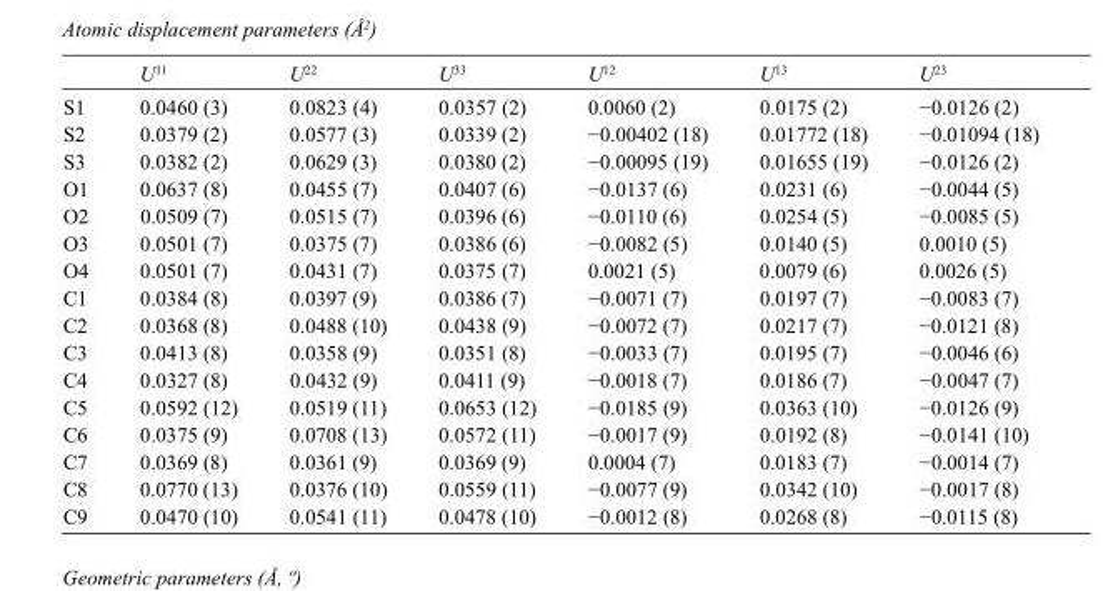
<table><thead><tr><td></td><td>U<sup>11</sup></td><td>U<sup>22</sup></td><td>U<sup>33</sup></td><td>U<sup>12</sup></td><td>U<sup>13</sup></td><td>U<sup>23</sup></td></tr></thead><tbody><tr><td>S1</td><td>0.0460 (3)</td><td>0.0823 (4)</td><td>0.0357 (2)</td><td>0.0060 (2)</td><td>0.0175 (2)</td><td>−0.0126 (2)</td></tr><tr><td>S2</td><td>0.0379 (2)</td><td>0.0577 (3)</td><td>0.0339 (2)</td><td>−0.00402 (18)</td><td>0.01772 (18)</td><td>−0.01094 (18)</td></tr><tr><td>S3</td><td>0.0382 (2)</td><td>0.0629 (3)</td><td>0.0380 (2)</td><td>−0.00095 (19)</td><td>0.01655 (19)</td><td>−0.0126 (2)</td></tr><tr><td>O1</td><td>0.0637 (8)</td><td>0.0455 (7)</td><td>0.0407 (6)</td><td>−0.0137 (6)</td><td>0.0231 (6)</td><td>−0.0044 (5)</td></tr><tr><td>O2</td><td>0.0509 (7)</td><td>0.0515 (7)</td><td>0.0396 (6)</td><td>−0.0110 (6)</td><td>0.0254 (5)</td><td>−0.0085 (5)</td></tr><tr><td>O3</td><td>0.0501 (7)</td><td>0.0375 (7)</td><td>0.0386 (6)</td><td>−0.0082 (5)</td><td>0.0140 (5)</td><td>0.0010 (5)</td></tr><tr><td>O4</td><td>0.0501 (7)</td><td>0.0431 (7)</td><td>0.0375 (7)</td><td>0.0021 (5)</td><td>0.0079 (6)</td><td>0.0026 (5)</td></tr><tr><td>C1</td><td>0.0384 (8)</td><td>0.0397 (9)</td><td>0.0386 (7)</td><td>−0.0071 (7)</td><td>0.0197 (7)</td><td>−0.0083 (7)</td></tr><tr><td>C2</td><td>0.0368 (8)</td><td>0.0488 (10)</td><td>0.0438 (9)</td><td>−0.0072 (7)</td><td>0.0217 (7)</td><td>−0.0121 (8)</td></tr><tr><td>C3</td><td>0.0413 (8)</td><td>0.0358 (9)</td><td>0.0351 (8)</td><td>−0.0033 (7)</td><td>0.0195 (7)</td><td>−0.0046 (6)</td></tr><tr><td>C4</td><td>0.0327 (8)</td><td>0.0432 (9)</td><td>0.0411 (9)</td><td>−0.0018 (7)</td><td>0.0186 (7)</td><td>−0.0047 (7)</td></tr><tr><td>C5</td><td>0.0592 (12)</td><td>0.0519 (11)</td><td>0.0653 (12)</td><td>−0.0185 (9)</td><td>0.0363 (10)</td><td>−0.0126 (9)</td></tr><tr><td>C6</td><td>0.0375 (9)</td><td>0.0708 (13)</td><td>0.0572 (11)</td><td>−0.0017 (9)</td><td>0.0192 (8)</td><td>−0.0141 (10)</td></tr><tr><td>C7</td><td>0.0369 (8)</td><td>0.0361 (9)</td><td>0.0369 (9)</td><td>0.0004 (7)</td><td>0.0183 (7)</td><td>−0.0014 (7)</td></tr><tr><td>C8</td><td>0.0770 (13)</td><td>0.0376 (10)</td><td>0.0559 (11)</td><td>−0.0077 (9)</td><td>0.0342 (10)</td><td>−0.0017 (8)</td></tr><tr><td>C9</td><td>0.0470 (10)</td><td>0.0541 (11)</td><td>0.0478 (10)</td><td>−0.0012 (8)</td><td>0.0268 (8)</td><td>−0.0115 (8)</td></tr></tbody></table>